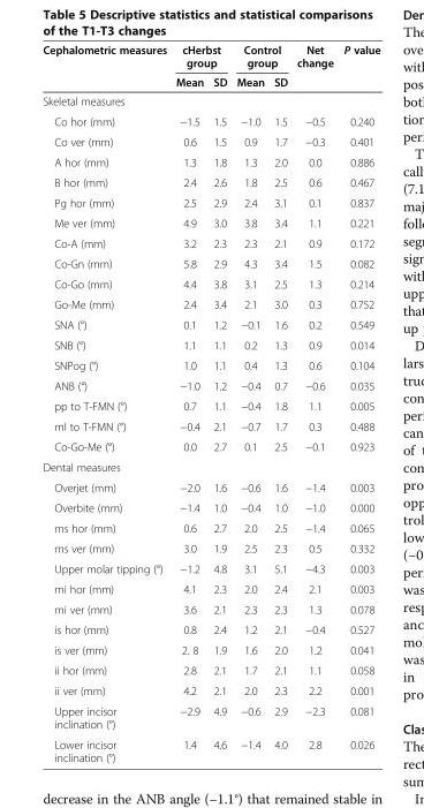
<table><thead><tr><td rowspan="2">Cephalometric measures</td><td colspan="2">cHerbst group</td><td colspan="2">Control group</td><td rowspan="2">Net change</td><td rowspan="2">P value</td></tr><tr><td>Mean</td><td>SD</td><td>Mean</td><td>SD</td></tr></thead><tbody><tr><td colspan="7">Skeletal measures</td></tr><tr><td>Co hor (mm)</td><td>−1.5</td><td>1.5</td><td>−1.0</td><td>1.5</td><td>−0.5</td><td>0.240</td></tr><tr><td>Co ver (mm)</td><td>0.6</td><td>1.5</td><td>0.9</td><td>1.7</td><td>−0.3</td><td>0.401</td></tr><tr><td>A hor (mm)</td><td>1.3</td><td>1.8</td><td>1.3</td><td>2.0</td><td>0.0</td><td>0.886</td></tr><tr><td>B hor (mm)</td><td>2.4</td><td>2.6</td><td>1.8</td><td>2.5</td><td>0.6</td><td>0.467</td></tr><tr><td>Pg hor (mm)</td><td>2.5</td><td>2.9</td><td>2.4</td><td>3.1</td><td>0.1</td><td>0.837</td></tr><tr><td>Me ver (mm)</td><td>4.9</td><td>3.0</td><td>3.8</td><td>3.4</td><td>1.1</td><td>0.221</td></tr><tr><td>Co-A (mm)</td><td>3.2</td><td>2.3</td><td>2.3</td><td>2.1</td><td>0.9</td><td>0.172</td></tr><tr><td>Co-Gn (mm)</td><td>5.8</td><td>2.9</td><td>4.3</td><td>3.4</td><td>1.5</td><td>0.082</td></tr><tr><td>Co-Go (mm)</td><td>4.4</td><td>3.8</td><td>3.1</td><td>2.5</td><td>1.3</td><td>0.214</td></tr><tr><td>Go-Me (mm)</td><td>2.4</td><td>3.4</td><td>2.1</td><td>3.0</td><td>0.3</td><td>0.752</td></tr><tr><td>SNA (°)</td><td>0.1</td><td>1.2</td><td>−0.1</td><td>1.6</td><td>0.2</td><td>0.549</td></tr><tr><td>SNB (°)</td><td>1.1</td><td>1.1</td><td>0.2</td><td>1.3</td><td>0.9</td><td>0.014</td></tr><tr><td>SNPog (°)</td><td>1.0</td><td>1.1</td><td>0.4</td><td>1.3</td><td>0.6</td><td>0.104</td></tr><tr><td>ANB (°)</td><td>−1.0</td><td>1.2</td><td>−0.4</td><td>0.7</td><td>−0.6</td><td>0.035</td></tr><tr><td>pp to T-FMN (°)</td><td>0.7</td><td>1.1</td><td>−0.4</td><td>1.8</td><td>1.1</td><td>0.005</td></tr><tr><td>ml to T-FMN (°)</td><td>−0.4</td><td>2.1</td><td>−0.7</td><td>1.7</td><td>0.3</td><td>0.488</td></tr><tr><td>Co-Go-Me (°)</td><td>0.0</td><td>2.7</td><td>0.1</td><td>2.5</td><td>−0.1</td><td>0.923</td></tr><tr><td colspan="7">Dental measures</td></tr><tr><td>Overjet (mm)</td><td>−2.0</td><td>1.6</td><td>−0.6</td><td>1.6</td><td>−1.4</td><td>0.003</td></tr><tr><td>Overbite (mm)</td><td>−1.4</td><td>1.0</td><td>−0.4</td><td>1.0</td><td>−1.0</td><td>0.000</td></tr><tr><td>ms hor (mm)</td><td>0.6</td><td>2.7</td><td>2.0</td><td>2.5</td><td>−1.4</td><td>0.065</td></tr><tr><td>ms ver (mm)</td><td>3.0</td><td>1.9</td><td>2.5</td><td>2.3</td><td>0.5</td><td>0.332</td></tr><tr><td>Upper molar tipping (°)</td><td>−1.2</td><td>4.8</td><td>3.1</td><td>5.1</td><td>−4.3</td><td>0.003</td></tr><tr><td>mi hor (mm)</td><td>4.1</td><td>2.3</td><td>2.0</td><td>2.4</td><td>2.1</td><td>0.003</td></tr><tr><td>mi ver (mm)</td><td>3.6</td><td>2.1</td><td>2.3</td><td>2.3</td><td>1.3</td><td>0.078</td></tr><tr><td>is hor (mm)</td><td>0.8</td><td>2.4</td><td>1.2</td><td>2.1</td><td>−0.4</td><td>0.527</td></tr><tr><td>is ver (mm)</td><td>2. 8</td><td>1.9</td><td>1.6</td><td>2.0</td><td>1.2</td><td>0.041</td></tr><tr><td>ii hor (mm)</td><td>2.8</td><td>2.1</td><td>1.7</td><td>2.1</td><td>1.1</td><td>0.058</td></tr><tr><td>ii ver (mm)</td><td>4.2</td><td>2.1</td><td>2.0</td><td>2.3</td><td>2.2</td><td>0.001</td></tr><tr><td>Upper incisor inclination (°)</td><td>−2.9</td><td>4.9</td><td>−0.6</td><td>2.9</td><td>−2.3</td><td>0.081</td></tr><tr><td>Lower incisor inclination (°)</td><td>1.4</td><td>4.6</td><td>−1.4</td><td>4.0</td><td>2.8</td><td>0.026</td></tr></tbody></table>